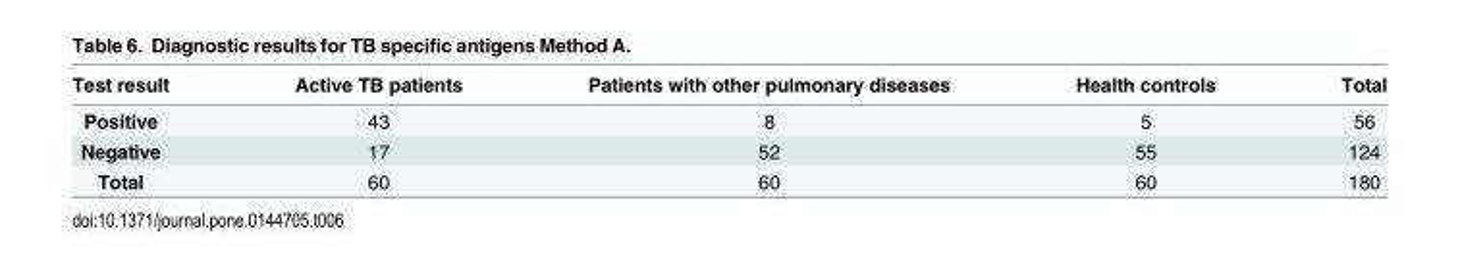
<table><thead><tr><td>Test result</td><td>Active TB patients</td><td>Patients with other pulmonary diseases</td><td>Health controls</td><td>Total</td></tr></thead><tbody><tr><td>Positive</td><td>43</td><td>8</td><td>5</td><td>56</td></tr><tr><td>Negative</td><td>17</td><td>52</td><td>55</td><td>124</td></tr><tr><td>Total</td><td>60</td><td>60</td><td>60</td><td>180</td></tr></tbody></table>